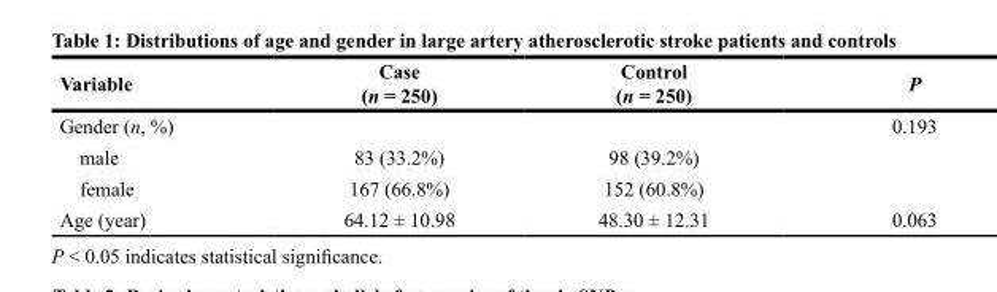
<table><thead><tr><td>Variable</td><td>Case (n = 250)</td><td>Control (n = 250)</td><td>P</td></tr></thead><tbody><tr><td>Gender (n, %)</td><td></td><td></td><td>0.193</td></tr><tr><td>male</td><td>83 (33.2%)</td><td>98 (39.2%)</td><td></td></tr><tr><td>female</td><td>167 (66.8%)</td><td>152 (60.8%)</td><td></td></tr><tr><td>Age (year)</td><td>64.12 ± 10.98</td><td>48.30 ± 12.31</td><td>0.063</td></tr></tbody></table>